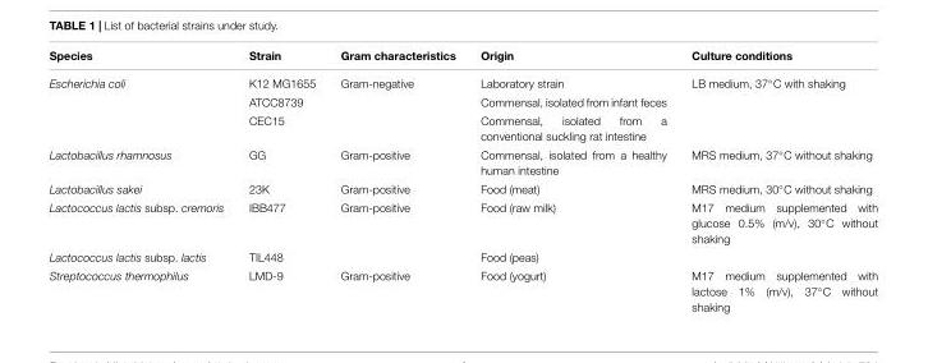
<table><thead><tr><td>Species</td><td>Strain</td><td>Gram characteristics</td><td>Origin</td><td>Culture conditions</td></tr></thead><tbody><tr><td rowspan="3">Escherichia coli</td><td>K12 MG1655</td><td>Gram-negative</td><td>Laboratory strain</td><td>LB medium, 37◦C with shaking</td></tr><tr><td>ATCC8739</td><td></td><td>Commensal, isolated from infant feces</td><td></td></tr><tr><td>CEC15</td><td></td><td>Commensal, isolated from a conventional suckling rat intestine</td><td></td></tr><tr><td>Lactobacillus rhamnosus</td><td>GG</td><td>Gram-positive</td><td>Commensal, isolated from a healthy human intestine</td><td>MRS medium, 37◦C without shaking</td></tr><tr><td>Lactobacillus sakei</td><td>23K</td><td>Gram-positive</td><td>Food (meat)</td><td>MRS medium, 30◦C without shaking</td></tr><tr><td>Lactococcus lactis subsp. cremoris</td><td>IBB477</td><td>Gram-positive</td><td>Food (raw milk)</td><td>M17 medium supplemented with glucose 0.5% (m/v), 30◦C without shaking</td></tr><tr><td>Lactococcus lactis subsp. lactis</td><td>TIL448</td><td></td><td>Food (peas)</td><td></td></tr><tr><td>Streptococcus thermophilus</td><td>LMD-9</td><td>Gram-positive</td><td>Food (yogurt)</td><td>M17 medium supplemented with lactose 1% (m/v), 37◦C without shaking</td></tr></tbody></table>